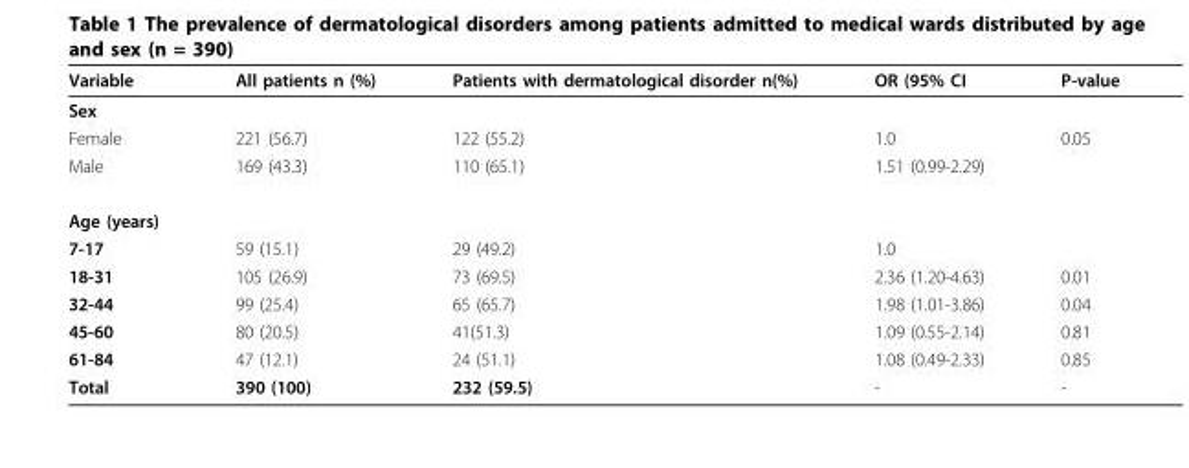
<table><thead><tr><td>Variable</td><td>All patients n (%)</td><td>Patients with dermatological disorder n(%)</td><td>OR (95% CI</td><td>P-value</td></tr></thead><tbody><tr><td colspan="5">Sex</td></tr><tr><td>Female</td><td>221 (56.7)</td><td>122 (55.2)</td><td>1.0</td><td>0.05</td></tr><tr><td>Male</td><td>169 (43.3)</td><td>110 (65.1)</td><td>1.51 (0.99-2.29)</td><td></td></tr><tr><td colspan="5">Age (years)</td></tr><tr><td>7-17</td><td>59 (15.1)</td><td>29 (49.2)</td><td>1.0</td><td></td></tr><tr><td>18-31</td><td>105 (26.9)</td><td>73 (69.5)</td><td>2.36 (1.20-4.63)</td><td>0.01</td></tr><tr><td>32-44</td><td>99 (25.4)</td><td>65 (65.7)</td><td>1.98 (1.01-3.86)</td><td>0.04</td></tr><tr><td>45-60</td><td>80 (20.5)</td><td>41(51.3)</td><td>1.09 (0.55-2.14)</td><td>0.81</td></tr><tr><td>61-84</td><td>47 (12.1)</td><td>24 (51.1)</td><td>1.08 (0.49-2.33)</td><td>0.85</td></tr><tr><td>Total</td><td>390 (100)</td><td>232 (59.5)</td><td>-</td><td>-</td></tr></tbody></table>